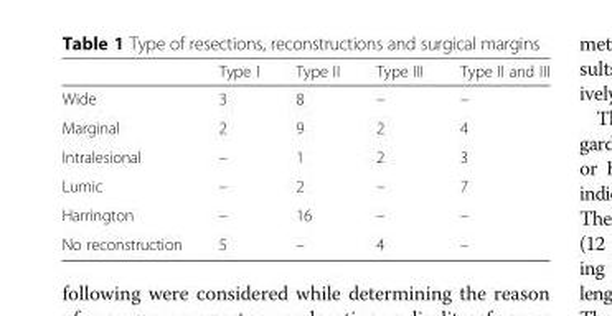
<table><thead><tr><td></td><td>Type I</td><td>Type II</td><td>Type III</td><td>Type II and III</td></tr></thead><tbody><tr><td>Wide</td><td>3</td><td>8</td><td>–</td><td>–</td></tr><tr><td>Marginal</td><td>2</td><td>9</td><td>2</td><td>4</td></tr><tr><td>Intralesional</td><td>–</td><td>1</td><td>2</td><td>3</td></tr><tr><td>Lumic</td><td>–</td><td>2</td><td>–</td><td>7</td></tr><tr><td>Harrington</td><td>–</td><td>16</td><td>–</td><td>–</td></tr><tr><td>No reconstruction</td><td>5</td><td>–</td><td>4</td><td>–</td></tr></tbody></table>